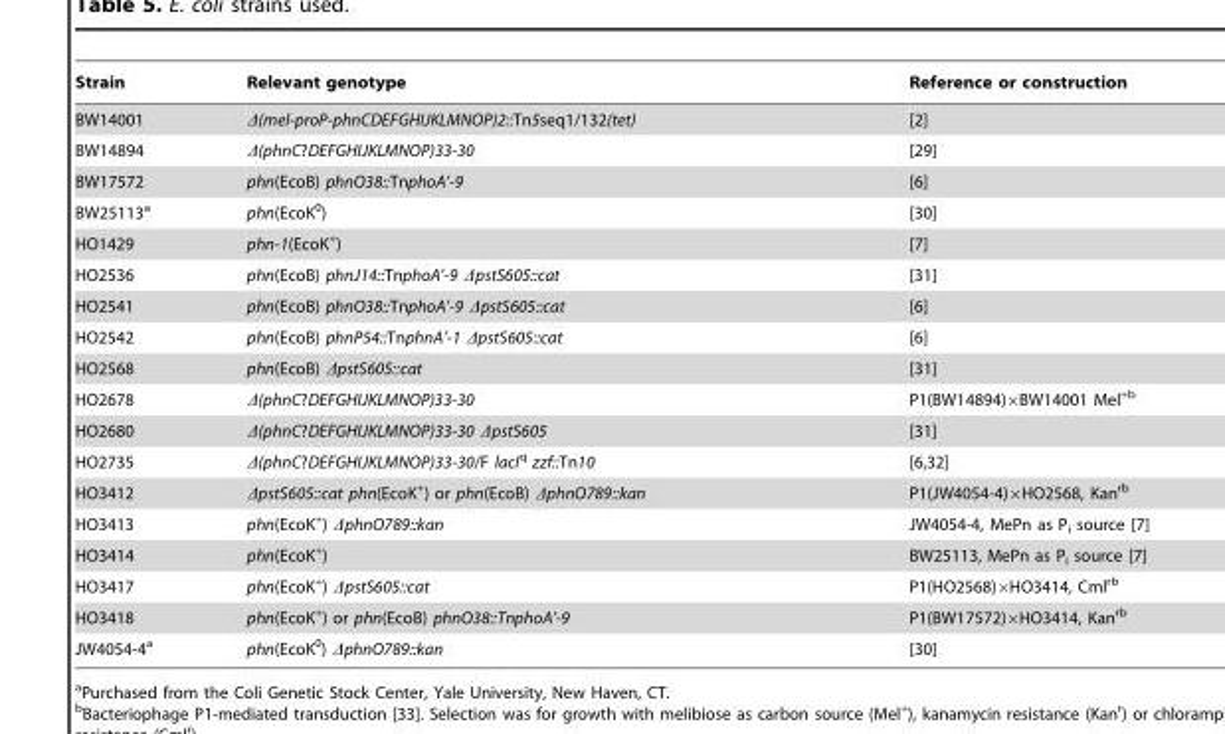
<table><thead><tr><td>Strain</td><td>Relevant genotype</td><td>Reference or construction</td></tr></thead><tbody><tr><td>BW14001</td><td>Δ(mel-proP-phnCDEFGHIJKLMNOP)2::Tn5seq1/132(tet)</td><td>[2]</td></tr><tr><td>BW14894</td><td>Δ(phnC?DEFGHIJKLMNOP)33-30</td><td>[29]</td></tr><tr><td>BW17572</td><td>phn(EcoB) phnO38::TnphoA’-9</td><td>[6]</td></tr><tr><td>BW25113<sup>a</sup></td><td>phn(EcoK<sup>0</sup>)</td><td>[30]</td></tr><tr><td>HO1429</td><td>phn-1(EcoK<sup>+</sup>)</td><td>[7]</td></tr><tr><td>HO2536</td><td>phn(EcoB) phnJ14::TnphoA’-9 ΔpstS605::cat</td><td>[31]</td></tr><tr><td>HO2541</td><td>phn(EcoB) phnO38::TnphoA’-9 ΔpstS605::cat</td><td>[6]</td></tr><tr><td>HO2542</td><td>phn(EcoB) phnP54::TnphnA’-1 ΔpstS605::cat</td><td>[6]</td></tr><tr><td>HO2568</td><td>phn(EcoB) ΔpstS605::cat</td><td>[31]</td></tr><tr><td>HO2678</td><td>Δ(phnC?DEFGHIJKLMNOP)33-30</td><td>P1(BW14894)×BW14001 Mel<sup>+</sup>b</td></tr><tr><td>HO2680</td><td>Δ(phnC?DEFGHIJKLMNOP)33-30 ΔpstS605</td><td>[31]</td></tr><tr><td>HO2735</td><td>Δ(phnC?DEFGHIJKLMNOP)33-30/F lacI<sup>q</sup> zzf::Tn10</td><td>[6,32]</td></tr><tr><td>HO3412</td><td>ΔpstS605::cat phn(EcoK<sup>+</sup>) or phn(EcoB) ΔphnO789::kan</td><td>P1(JW4054-4)×HO2568, Kan<sup>rb</sup></td></tr><tr><td>HO3413</td><td>phn(EcoK<sup>+</sup>) ΔphnO789::kan</td><td>JW4054-4, MePn as P<sub>i</sub> source [7]</td></tr><tr><td>HO3414</td><td>phn(EcoK<sup>+</sup>)</td><td>BW25113, MePn as P<sub>i</sub> source [7]</td></tr><tr><td>HO3417</td><td>phn(EcoK<sup>+</sup>) ΔpstS605::cat</td><td>P1(HO2568)×HO3414, Cml<sup>rb</sup></td></tr><tr><td>HO3418</td><td>phn(EcoK<sup>+</sup>) or phn(EcoB) phnO38::TnphoA’-9</td><td>P1(BW17572)×HO3414, Kan<sup>rb</sup></td></tr><tr><td>JW4054-4<sup>a</sup></td><td>phn(EcoK<sup>0</sup>) ΔphnO789::kan</td><td>[30]</td></tr></tbody></table>